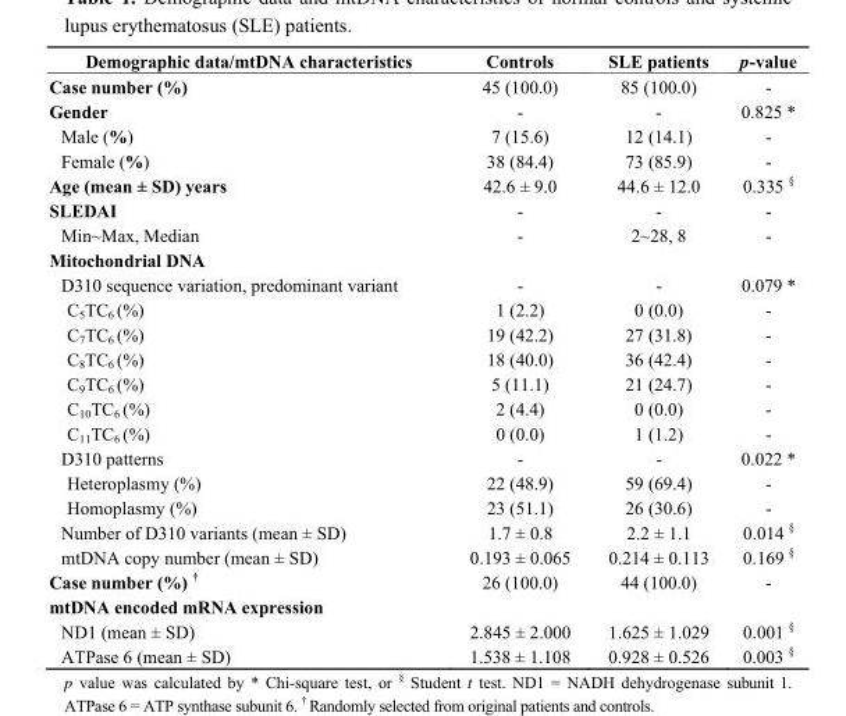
<table><thead><tr><td>Demographic data/mtDNA characteristics</td><td>Controls</td><td>SLE patients</td><td>p-value</td></tr></thead><tbody><tr><td>Case number (%)</td><td>45 (100.0)</td><td>85 (100.0)</td><td>-</td></tr><tr><td>Gender</td><td>-</td><td>-</td><td>0.825 *</td></tr><tr><td>Male (%)</td><td>7 (15.6)</td><td>12 (14.1)</td><td>-</td></tr><tr><td>Female (%)</td><td>38 (84.4)</td><td>73 (85.9)</td><td>-</td></tr><tr><td>Age (mean ± SD) years</td><td>42.6 ± 9.0</td><td>44.6 ± 12.0</td><td>0.335 <sup>§</sup></td></tr><tr><td>SLEDAI</td><td>-</td><td>-</td><td>-</td></tr><tr><td>Min~Max, Median</td><td>-</td><td>2~28, 8</td><td>-</td></tr><tr><td colspan="4">Mitochondrial DNA</td></tr><tr><td>D310 sequence variation, predominant variant</td><td>-</td><td>-</td><td>0.079 *</td></tr><tr><td>C<sub>5</sub>TC<sub>6</sub> (%)</td><td>1 (2.2)</td><td>0 (0.0)</td><td>-</td></tr><tr><td>C<sub>7</sub>TC<sub>6</sub> (%)</td><td>19 (42.2)</td><td>27 (31.8)</td><td>-</td></tr><tr><td>C<sub>8</sub>TC<sub>6</sub> (%)</td><td>18 (40.0)</td><td>36 (42.4)</td><td>-</td></tr><tr><td>C<sub>9</sub>TC<sub>6</sub> (%)</td><td>5 (11.1)</td><td>21 (24.7)</td><td>-</td></tr><tr><td>C<sub>10</sub>TC<sub>6</sub> (%)</td><td>2 (4.4)</td><td>0 (0.0)</td><td>-</td></tr><tr><td>C<sub>11</sub>TC<sub>6</sub> (%)</td><td>0 (0.0)</td><td>1 (1.2)</td><td>-</td></tr><tr><td>D310 patterns</td><td>-</td><td>-</td><td>0.022 *</td></tr><tr><td>Heteroplasmy (%)</td><td>22 (48.9)</td><td>59 (69.4)</td><td>-</td></tr><tr><td>Homoplasmy (%)</td><td>23 (51.1)</td><td>26 (30.6)</td><td>-</td></tr><tr><td>Number of D310 variants (mean ± SD)</td><td>1.7 ± 0.8</td><td>2.2 ± 1.1</td><td>0.014 <sup>§</sup></td></tr><tr><td>mtDNA copy number (mean ± SD)</td><td>0.193 ± 0.065</td><td>0.214 ± 0.113</td><td>0.169 <sup>§</sup></td></tr><tr><td>Case number (%) †</td><td>26 (100.0)</td><td>44 (100.0)</td><td>-</td></tr><tr><td colspan="4">mtDNA encoded mRNA expression</td></tr><tr><td>ND1 (mean ± SD)</td><td>2.845 ± 2.000</td><td>1.625 ± 1.029</td><td>0.001 <sup>§</sup></td></tr><tr><td>ATPase 6 (mean ± SD)</td><td>1.538 ± 1.108</td><td>0.928 ± 0.526</td><td>0.003 <sup>§</sup></td></tr></tbody></table>